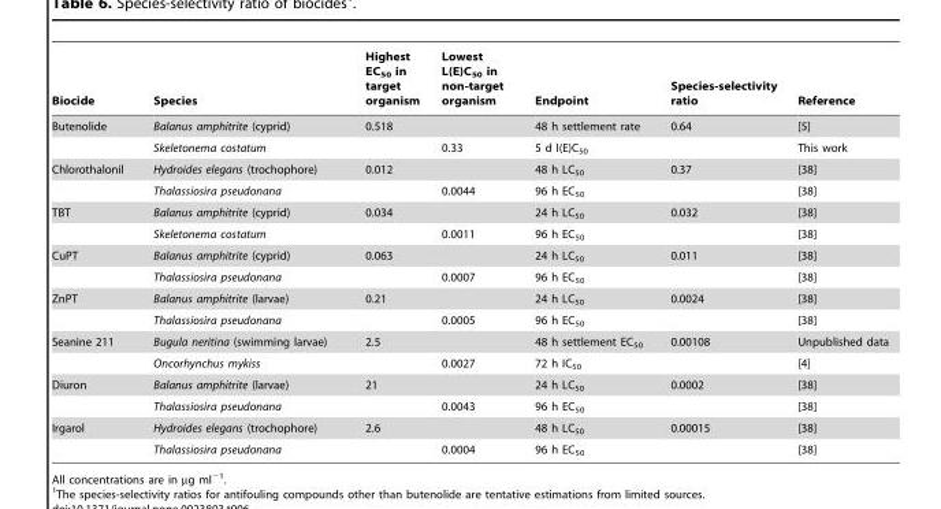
<table><thead><tr><td>Biocide</td><td>Species</td><td>Highest EC<sub>50</sub> in target organism</td><td>Lowest L(E)C<sub>50</sub> in non-target organism</td><td>Endpoint</td><td>Species-selectivity ratio</td><td>Reference</td></tr></thead><tbody><tr><td rowspan="2">Butenolide</td><td>Balanus amphitrite (cyprid)</td><td>0.518</td><td></td><td>48 h settlement rate</td><td>0.64</td><td>[5]</td></tr><tr><td>Skeletonema costatum</td><td></td><td>0.33</td><td>5 d I(E)C<sub>50</sub></td><td></td><td>This work</td></tr><tr><td rowspan="2">Chlorothalonil</td><td>Hydroides elegans (trochophore)</td><td>0.012</td><td></td><td>48 h LC<sub>50</sub></td><td>0.37</td><td>[38]</td></tr><tr><td>Thalassiosira pseudonana</td><td></td><td>0.0044</td><td>96 h EC<sub>50</sub></td><td></td><td>[38]</td></tr><tr><td rowspan="2">TBT</td><td>Balanus amphitrite (cyprid)</td><td>0.034</td><td></td><td>24 h LC<sub>50</sub></td><td>0.032</td><td>[38]</td></tr><tr><td>Skeletonema costatum</td><td></td><td>0.0011</td><td>96 h EC<sub>50</sub></td><td></td><td>[38]</td></tr><tr><td rowspan="2">CuPT</td><td>Balanus amphitrite (cyprid)</td><td>0.063</td><td></td><td>24 h LC<sub>50</sub></td><td>0.011</td><td>[38]</td></tr><tr><td>Thalassiosira pseudonana</td><td></td><td>0.0007</td><td>96 h EC<sub>50</sub></td><td></td><td>[38]</td></tr><tr><td rowspan="2">ZnPT</td><td>Balanus amphitrite (larvae)</td><td>0.21</td><td></td><td>24 h LC<sub>50</sub></td><td>0.0024</td><td>[38]</td></tr><tr><td>Thalassiosira pseudonana</td><td></td><td>0.0005</td><td>96 h EC<sub>50</sub></td><td></td><td>[38]</td></tr><tr><td rowspan="2">Seanine 211</td><td>Bugula neritina (swimming larvae)</td><td>2.5</td><td></td><td>48 h settlement EC<sub>50</sub></td><td>0.00108</td><td>Unpublished data</td></tr><tr><td>Oncorhynchus mykiss</td><td></td><td>0.0027</td><td>72 h IC<sub>50</sub></td><td></td><td>[4]</td></tr><tr><td rowspan="2">Diuron</td><td>Balanus amphitrite (larvae)</td><td>21</td><td></td><td>24 h LC<sub>50</sub></td><td>0.0002</td><td>[38]</td></tr><tr><td>Thalassiosira pseudonana</td><td></td><td>0.0043</td><td>96 h EC<sub>50</sub></td><td></td><td>[38]</td></tr><tr><td rowspan="2">Irgarol</td><td>Hydroides elegans (trochophore)</td><td>2.6</td><td></td><td>48 h LC<sub>50</sub></td><td>0.00015</td><td>[38]</td></tr><tr><td>Thalassiosira pseudonana</td><td></td><td>0.0004</td><td>96 h EC<sub>50</sub></td><td></td><td>[38]</td></tr></tbody></table>